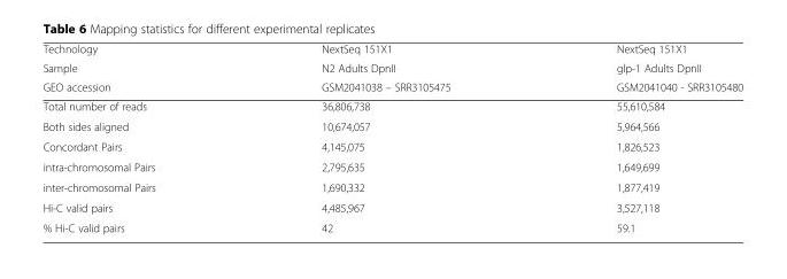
<table><thead><tr><td rowspan="3">Technology Sample GEO accession</td><td rowspan="3">NextSeq 151X1 N2 Adults DpnII GSM2041038 – SRR3105475</td><td rowspan="3">NextSeq 151X1 glp-1 Adults DpnII GSM2041040 - SRR3105480</td></tr><tr></tr><tr></tr></thead><tbody><tr><td>Total number of reads</td><td>36,806,738</td><td>55,610,584</td></tr><tr><td>Both sides aligned</td><td>10,674,057</td><td>5,964,566</td></tr><tr><td>Concordant Pairs</td><td>4,145,075</td><td>1,826,523</td></tr><tr><td>intra-chromosomal Pairs</td><td>2,795,635</td><td>1,649,699</td></tr><tr><td>inter-chromosomal Pairs</td><td>1,690,332</td><td>1,877,419</td></tr><tr><td>Hi-C valid pairs</td><td>4,485,967</td><td>3,527,118</td></tr><tr><td>% Hi-C valid pairs</td><td>42</td><td>59.1</td></tr></tbody></table>